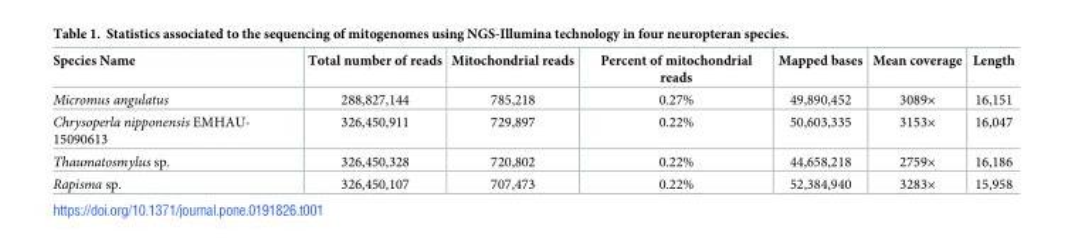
<table><thead><tr><td>Species Name</td><td>Total number of reads</td><td>Mitochondrial reads</td><td>Percent of mitochondrial reads</td><td>Mapped bases</td><td>Mean coverage</td><td>Length</td></tr></thead><tbody><tr><td>Micromus angulatus</td><td>288,827,144</td><td>785,218</td><td>0.27%</td><td>49,890,452</td><td>3089×</td><td>16,151</td></tr><tr><td>Chrysoperla nipponensis EMHAU- 15090613</td><td>326,450,911</td><td>729,897</td><td>0.22%</td><td>50,603,335</td><td>3153×</td><td>16,047</td></tr><tr><td>Thaumatosmylus sp.</td><td>326,450,328</td><td>720,802</td><td>0.22%</td><td>44,658,218</td><td>2759×</td><td>16,186</td></tr><tr><td>Rapisma sp.</td><td>326,450,107</td><td>707,473</td><td>0.22%</td><td>52,384,940</td><td>3283×</td><td>15,958</td></tr></tbody></table>